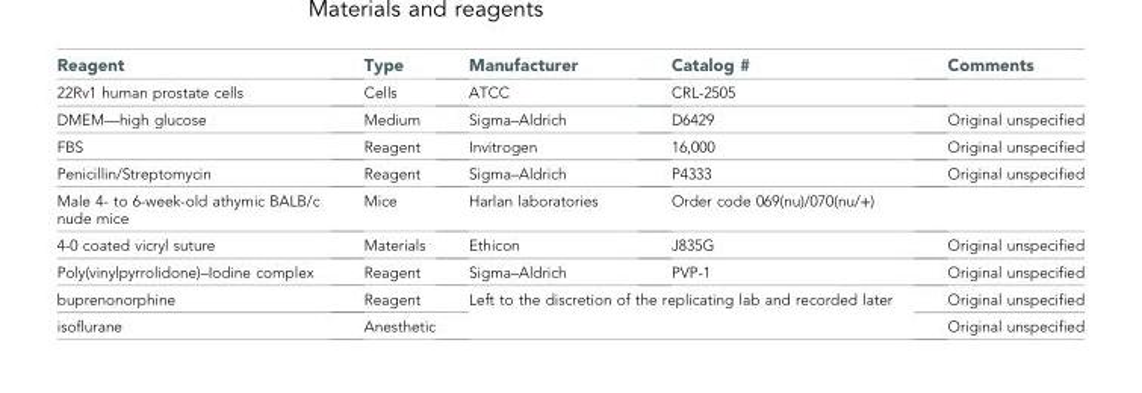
<table><thead><tr><td>Reagent</td><td>Type</td><td>Manufacturer</td><td>Catalog #</td><td>Comments</td></tr></thead><tbody><tr><td>22Rv1 human prostate cells</td><td>Cells</td><td>ATCC</td><td>CRL-2505</td><td></td></tr><tr><td>DMEM—high glucose</td><td>Medium</td><td>Sigma–Aldrich</td><td>D6429</td><td>Original unspecified</td></tr><tr><td>FBS</td><td>Reagent</td><td>Invitrogen</td><td>16,000</td><td>Original unspecified</td></tr><tr><td>Penicillin/Streptomycin</td><td>Reagent</td><td>Sigma–Aldrich</td><td>P4333</td><td>Original unspecified</td></tr><tr><td>Male 4- to 6-week-old athymic BALB/c nude mice</td><td>Mice</td><td>Harlan laboratories</td><td>Order code 069(nu)/070(nu/+)</td><td></td></tr><tr><td>4-0 coated vicryl suture</td><td>Materials</td><td>Ethicon</td><td>J835G</td><td>Original unspecified</td></tr><tr><td>Poly(vinylpyrrolidone)–Iodine complex</td><td>Reagent</td><td>Sigma–Aldrich</td><td>PVP-1</td><td>Original unspecified</td></tr><tr><td>buprenonorphine</td><td>Reagent</td><td rowspan="2" colspan="2">Left to the discretion of the replicating lab and recorded later</td><td>Original unspecified</td></tr><tr><td>isoflurane</td><td>Anesthetic</td><td>Original unspecified</td></tr></tbody></table>